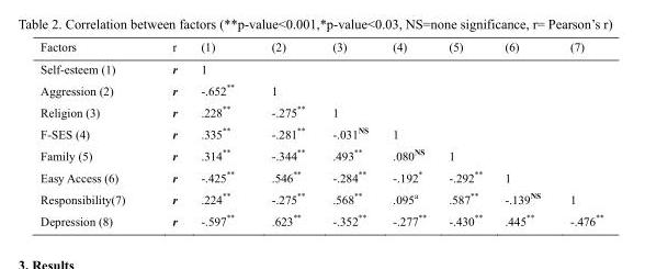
<table><thead><tr><td>Factors</td><td>r</td><td>(1)</td><td>(2)</td><td>(3)</td><td>(4)</td><td>(5)</td><td>(6)</td><td>(7)</td></tr></thead><tbody><tr><td>Self-esteem (1)</td><td>r</td><td>1</td><td></td><td></td><td></td><td></td><td></td><td></td></tr><tr><td>Aggression (2)</td><td>r</td><td>-.652**</td><td>1</td><td></td><td></td><td></td><td></td><td></td></tr><tr><td>Religion (3)</td><td>r</td><td>.228**</td><td>-.275**</td><td>1</td><td></td><td></td><td></td><td></td></tr><tr><td>F-SES (4)</td><td>r</td><td>.335**</td><td>-.281**</td><td>-.031<sup>NS</sup></td><td>1</td><td></td><td></td><td></td></tr><tr><td>Family (5)</td><td>r</td><td>.314**</td><td>-.344**</td><td>.493**</td><td>.080<sup>NS</sup></td><td>1</td><td></td><td></td></tr><tr><td>Easy Access (6)</td><td>r</td><td>-.425**</td><td>.546**</td><td>-.284**</td><td>-.192*</td><td>-.292**</td><td>1</td><td></td></tr><tr><td>Responsibility(7)</td><td>r</td><td>.224**</td><td>-.275**</td><td>.568**</td><td>.095<sup>a</sup></td><td>.587**</td><td>-.139<sup>NS</sup></td><td>1</td></tr><tr><td>Depression (8)</td><td>r</td><td>-.597**</td><td>.623**</td><td>-.352**</td><td>-.277**</td><td>-.430**</td><td>.445**</td><td>-.476**</td></tr></tbody></table>